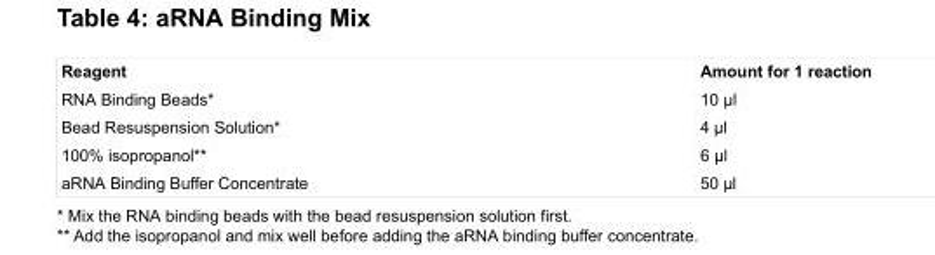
<table><tbody><tr><td>Reagent</td><td>Amount for 1 reaction</td></tr><tr><td>RNA Binding Beads*</td><td>10 µl</td></tr><tr><td>Bead Resuspension Solution*</td><td>4 µl</td></tr><tr><td>100% isopropanol**</td><td>6 µl</td></tr><tr><td>aRNA Binding Buffer Concentrate</td><td>50 µl</td></tr></tbody></table>